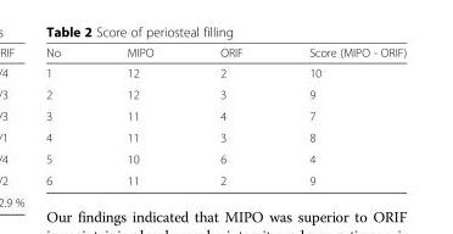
<table><thead><tr><td>No</td><td>MIPO</td><td>ORIF</td><td>Score (MIPO - ORIF)</td></tr></thead><tbody><tr><td>1</td><td>12</td><td>2</td><td>10</td></tr><tr><td>2</td><td>12</td><td>3</td><td>9</td></tr><tr><td>3</td><td>11</td><td>4</td><td>7</td></tr><tr><td>4</td><td>11</td><td>3</td><td>8</td></tr><tr><td>5</td><td>10</td><td>6</td><td>4</td></tr><tr><td>6</td><td>11</td><td>2</td><td>9</td></tr></tbody></table>